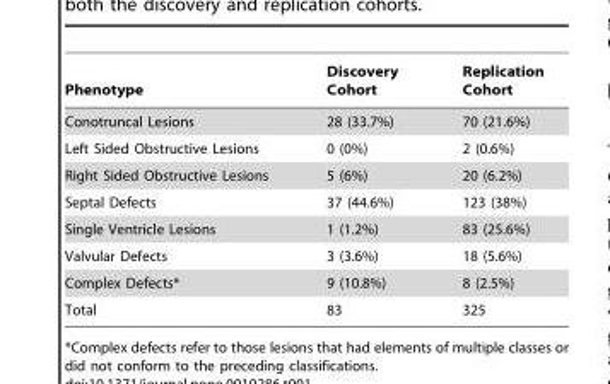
<table><thead><tr><td>Phenotype</td><td>Discovery Cohort</td><td>Replication Cohort</td></tr></thead><tbody><tr><td>Conotruncal Lesions</td><td>28 (33.7%)</td><td>70 (21.6%)</td></tr><tr><td>Left Sided Obstructive Lesions</td><td>0 (0%)</td><td>2 (0.6%)</td></tr><tr><td>Right Sided Obstructive Lesions</td><td>5 (6%)</td><td>20 (6.2%)</td></tr><tr><td>Septal Defects</td><td>37 (44.6%)</td><td>123 (38%)</td></tr><tr><td>Single Ventricle Lesions</td><td>1 (1.2%)</td><td>83 (25.6%)</td></tr><tr><td>Valvular Defects</td><td>3 (3.6%)</td><td>18 (5.6%)</td></tr><tr><td>Complex Defects*</td><td>9 (10.8%)</td><td>8 (2.5%)</td></tr><tr><td>Total</td><td>83</td><td>325</td></tr></tbody></table>